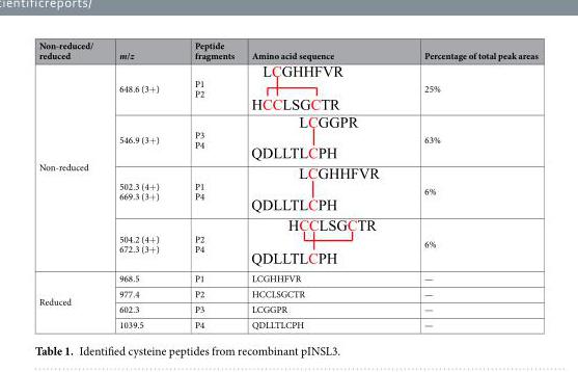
<table><thead><tr><td>Non-reduced/ reduced</td><td>m/z</td><td>Peptide fragments</td><td>Amino acid sequence</td><td>Percentage of total peak areas</td></tr></thead><tbody><tr><td rowspan="4">Non-reduced</td><td>648.6 (3+)</td><td>P1 P2</td><td></td><td>25%</td></tr><tr><td>546.9 (3+)</td><td>P3 P4</td><td></td><td>63%</td></tr><tr><td>502.3 (4+) 669.3 (3+)</td><td>P1 P4</td><td></td><td>6%</td></tr><tr><td>504.2 (4+) 672.3 (3+)</td><td>P2 P4</td><td></td><td>6%</td></tr><tr><td rowspan="4">Reduced</td><td>968.5</td><td>P1</td><td>LCGHHFVR</td><td>—</td></tr><tr><td>977.4</td><td>P2</td><td>HCCLSGCTR</td><td>—</td></tr><tr><td>602.3</td><td>P3</td><td>LCGGPR</td><td>—</td></tr><tr><td>1039.5</td><td>P4</td><td>QDLLTLCPH</td><td>—</td></tr></tbody></table>